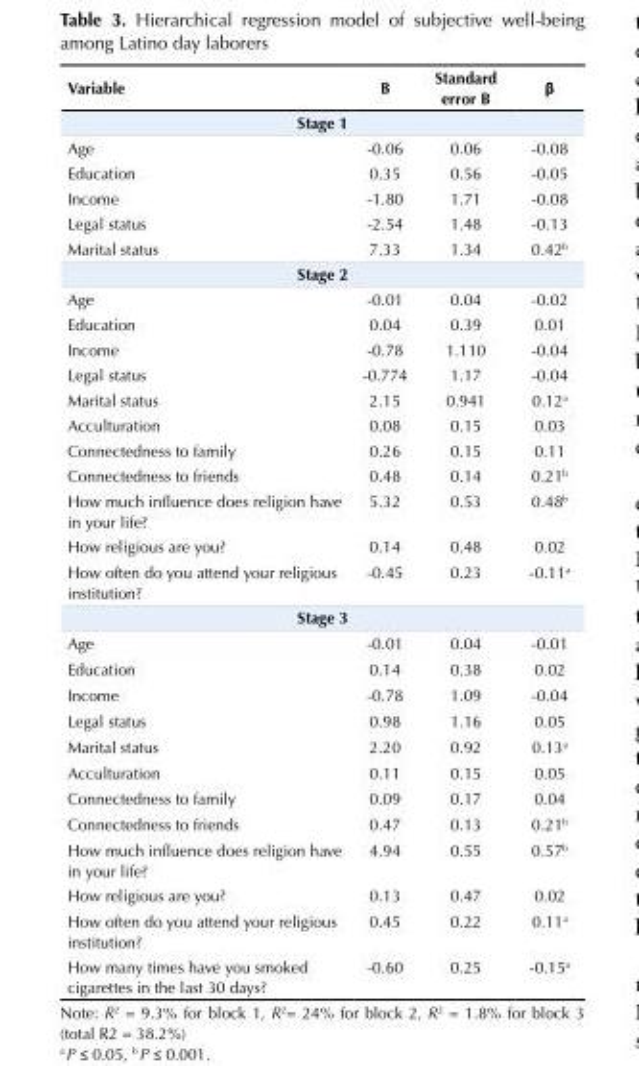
<table><tbody><tr><td>Variable</td><td>B</td><td>Standard error B</td><td>β</td></tr><tr><td colspan="4">Stage 1</td></tr><tr><td>Age</td><td>-0.06</td><td>0.06</td><td>-0.08</td></tr><tr><td>Education</td><td>0.35</td><td>0.56</td><td>-0.05</td></tr><tr><td>Income</td><td>-1.80</td><td>1.71</td><td>-0.08</td></tr><tr><td>Legal status</td><td>-2.54</td><td>1.48</td><td>-0.13</td></tr><tr><td>Marital status</td><td>7.33</td><td>1.34</td><td>0.42<sup>b</sup></td></tr><tr><td colspan="4">Stage 2</td></tr><tr><td>Age</td><td>-0.01</td><td>0.04</td><td>-0.02</td></tr><tr><td>Education</td><td>0.04</td><td>0.39</td><td>0.01</td></tr><tr><td>Income</td><td>-0.78</td><td>1.110</td><td>-0.04</td></tr><tr><td>Legal status</td><td>-0.774</td><td>1.17</td><td>-0.04</td></tr><tr><td>Marital status</td><td>2.15</td><td>0.941</td><td>0.12<sup>a</sup></td></tr><tr><td>Acculturation</td><td>0.08</td><td>0.15</td><td>0.03</td></tr><tr><td>Connectedness to family</td><td>0.26</td><td>0.15</td><td>0.11</td></tr><tr><td>Connectedness to friends</td><td>0.48</td><td>0.14</td><td>0.21<sup>b</sup></td></tr><tr><td>How much influence does religion have in your life?</td><td>5.32</td><td>0.53</td><td>0.48<sup>b</sup></td></tr><tr><td>How religious are you?</td><td>0.14</td><td>0.48</td><td>0.02</td></tr><tr><td>How often do you attend your religious institution?</td><td>-0.45</td><td>0.23</td><td>-0.11<sup>a</sup></td></tr><tr><td colspan="4">Stage 3</td></tr><tr><td>Age</td><td>-0.01</td><td>0.04</td><td>-0.01</td></tr><tr><td>Education</td><td>0.14</td><td>0.38</td><td>0.02</td></tr><tr><td>Income</td><td>-0.78</td><td>1.09</td><td>-0.04</td></tr><tr><td>Legal status</td><td>0.98</td><td>1.16</td><td>0.05</td></tr><tr><td>Marital status</td><td>2.20</td><td>0.92</td><td>0.13<sup>a</sup></td></tr><tr><td>Acculturation</td><td>0.11</td><td>0.15</td><td>0.05</td></tr><tr><td>Connectedness to family</td><td>0.09</td><td>0.17</td><td>0.04</td></tr><tr><td>Connectedness to friends</td><td>0.47</td><td>0.13</td><td>0.21<sup>b</sup></td></tr><tr><td>How much influence does religion have in your life?</td><td>4.94</td><td>0.55</td><td>0.57<sup>b</sup></td></tr><tr><td>How religious are you?</td><td>0.13</td><td>0.47</td><td>0.02</td></tr><tr><td>How often do you attend your religious institution?</td><td>0.45</td><td>0.22</td><td>0.11<sup>a</sup></td></tr><tr><td>How many times have you smoked cigarettes in the last 30 days?</td><td>-0.60</td><td>0.25</td><td>-0.15<sup>a</sup></td></tr></tbody></table>